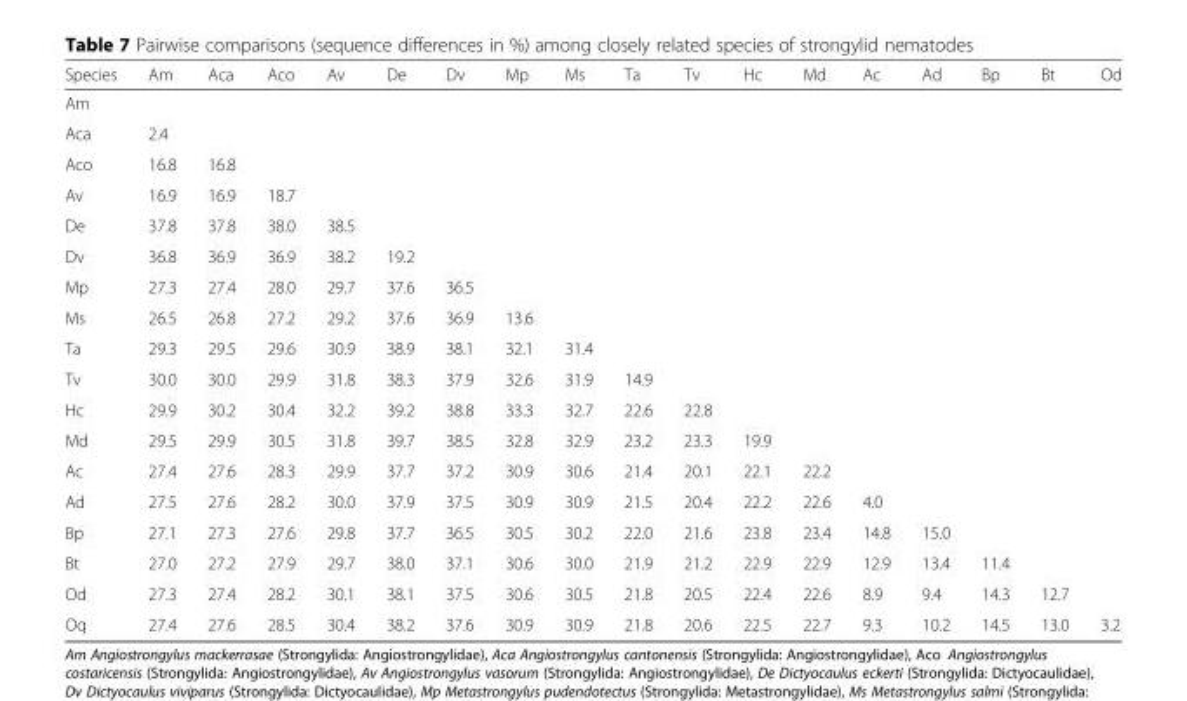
<table><thead><tr><td>Species</td><td>Am</td><td>Aca</td><td>Aco</td><td>Av</td><td>De</td><td>Dv</td><td>Mp</td><td>Ms</td><td>Ta</td><td>Tv</td><td>Hc</td><td>Md</td><td>Ac</td><td>Ad</td><td>Bp</td><td>Bt</td><td>Od</td></tr></thead><tbody><tr><td colspan="18">Am</td></tr><tr><td>Aca</td><td>2.4</td><td></td><td></td><td></td><td></td><td></td><td></td><td></td><td></td><td></td><td></td><td></td><td></td><td></td><td></td><td></td><td></td></tr><tr><td>Aco</td><td>16.8</td><td>16.8</td><td></td><td></td><td></td><td></td><td></td><td></td><td></td><td></td><td></td><td></td><td></td><td></td><td></td><td></td><td></td></tr><tr><td>Av</td><td>16.9</td><td>16.9</td><td>18.7</td><td></td><td></td><td></td><td></td><td></td><td></td><td></td><td></td><td></td><td></td><td></td><td></td><td></td><td></td></tr><tr><td>De</td><td>37.8</td><td>37.8</td><td>38.0</td><td>38.5</td><td></td><td></td><td></td><td></td><td></td><td></td><td></td><td></td><td></td><td></td><td></td><td></td><td></td></tr><tr><td>Dv</td><td>36.8</td><td>36.9</td><td>36.9</td><td>38.2</td><td>19.2</td><td></td><td></td><td></td><td></td><td></td><td></td><td></td><td></td><td></td><td></td><td></td><td></td></tr><tr><td>Mp</td><td>27.3</td><td>27.4</td><td>28.0</td><td>29.7</td><td>37.6</td><td>36.5</td><td></td><td></td><td></td><td></td><td></td><td></td><td></td><td></td><td></td><td></td><td></td></tr><tr><td>Ms</td><td>26.5</td><td>26.8</td><td>27.2</td><td>29.2</td><td>37.6</td><td>36.9</td><td>13.6</td><td></td><td></td><td></td><td></td><td></td><td></td><td></td><td></td><td></td><td></td></tr><tr><td>Ta</td><td>29.3</td><td>29.5</td><td>29.6</td><td>30.9</td><td>38.9</td><td>38.1</td><td>32.1</td><td>31.4</td><td></td><td></td><td></td><td></td><td></td><td></td><td></td><td></td><td></td></tr><tr><td>Tv</td><td>30.0</td><td>30.0</td><td>29.9</td><td>31.8</td><td>38.3</td><td>37.9</td><td>32.6</td><td>31.9</td><td>14.9</td><td></td><td></td><td></td><td></td><td></td><td></td><td></td><td></td></tr><tr><td>Hc</td><td>29.9</td><td>30.2</td><td>30.4</td><td>32.2</td><td>39.2</td><td>38.8</td><td>33.3</td><td>32.7</td><td>22.6</td><td>22.8</td><td></td><td></td><td></td><td></td><td></td><td></td><td></td></tr><tr><td>Md</td><td>29.5</td><td>29.9</td><td>30.5</td><td>31.8</td><td>39.7</td><td>38.5</td><td>32.8</td><td>32.9</td><td>23.2</td><td>23.3</td><td>19.9</td><td></td><td></td><td></td><td></td><td></td><td></td></tr><tr><td>Ac</td><td>27.4</td><td>27.6</td><td>28.3</td><td>29.9</td><td>37.7</td><td>37.2</td><td>30.9</td><td>30.6</td><td>21.4</td><td>20.1</td><td>22.1</td><td>22.2</td><td></td><td></td><td></td><td></td><td></td></tr><tr><td>Ad</td><td>27.5</td><td>27.6</td><td>28.2</td><td>30.0</td><td>37.9</td><td>37.5</td><td>30.9</td><td>30.9</td><td>21.5</td><td>20.4</td><td>22.2</td><td>22.6</td><td>4.0</td><td></td><td></td><td></td><td></td></tr><tr><td>Bp</td><td>27.1</td><td>27.3</td><td>27.6</td><td>29.8</td><td>37.7</td><td>36.5</td><td>30.5</td><td>30.2</td><td>22.0</td><td>21.6</td><td>23.8</td><td>23.4</td><td>14.8</td><td>15.0</td><td></td><td></td><td></td></tr><tr><td>Bt</td><td>27.0</td><td>27.2</td><td>27.9</td><td>29.7</td><td>38.0</td><td>37.1</td><td>30.6</td><td>30.0</td><td>21.9</td><td>21.2</td><td>22.9</td><td>22.9</td><td>12.9</td><td>13.4</td><td>11.4</td><td></td><td></td></tr><tr><td>Od</td><td>27.3</td><td>27.4</td><td>28.2</td><td>30.1</td><td>38.1</td><td>37.5</td><td>30.6</td><td>30.5</td><td>21.8</td><td>20.5</td><td>22.4</td><td>22.6</td><td>8.9</td><td>9.4</td><td>14.3</td><td>12.7</td><td></td></tr><tr><td>Oq</td><td>27.4</td><td>27.6</td><td>28.5</td><td>30.4</td><td>38.2</td><td>37.6</td><td>30.9</td><td>30.9</td><td>21.8</td><td>20.6</td><td>22.5</td><td>22.7</td><td>9.3</td><td>10.2</td><td>14.5</td><td>13.0</td><td>3.2</td></tr></tbody></table>